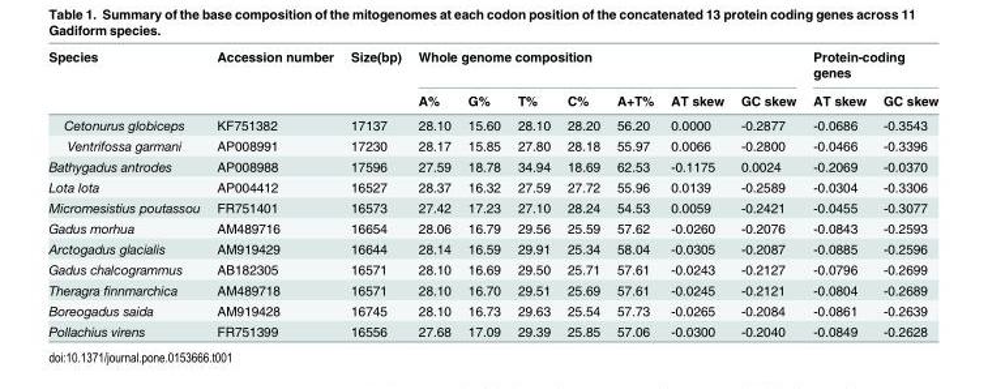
<table><thead><tr><td rowspan="2">Species</td><td rowspan="2">Accession number</td><td rowspan="2">Size(bp)</td><td colspan="7">Whole genome composition</td><td colspan="2">Protein-coding genes</td></tr><tr><td>A%</td><td>G%</td><td>T%</td><td>C%</td><td>A+T%</td><td>AT skew</td><td>GC skew</td><td>AT skew</td><td>GC skew</td></tr></thead><tbody><tr><td>Cetonurus globiceps</td><td>KF751382</td><td>17137</td><td>28.10</td><td>15.60</td><td>28.10</td><td>28.20</td><td>56.20</td><td>0.0000</td><td>-0.2877</td><td>-0.0686</td><td>-0.3543</td></tr><tr><td>Ventrifossa garmani</td><td>AP008991</td><td>17230</td><td>28.17</td><td>15.85</td><td>27.80</td><td>28.18</td><td>55.97</td><td>0.0066</td><td>-0.2800</td><td>-0.0466</td><td>-0.3396</td></tr><tr><td>Bathygadus antrodes</td><td>AP008988</td><td>17596</td><td>27.59</td><td>18.78</td><td>34.94</td><td>18.69</td><td>62.53</td><td>-0.1175</td><td>0.0024</td><td>-0.2069</td><td>-0.0370</td></tr><tr><td>Lota lota</td><td>AP004412</td><td>16527</td><td>28.37</td><td>16.32</td><td>27.59</td><td>27.72</td><td>55.96</td><td>0.0139</td><td>-0.2589</td><td>-0.0304</td><td>-0.3306</td></tr><tr><td>Micromesistius poutassou</td><td>FR751401</td><td>16573</td><td>27.42</td><td>17.23</td><td>27.10</td><td>28.24</td><td>54.53</td><td>0.0059</td><td>-0.2421</td><td>-0.0455</td><td>-0.3077</td></tr><tr><td>Gadus morhua</td><td>AM489716</td><td>16654</td><td>28.06</td><td>16.79</td><td>29.56</td><td>25.59</td><td>57.62</td><td>-0.0260</td><td>-0.2076</td><td>-0.0843</td><td>-0.2593</td></tr><tr><td>Arctogadus glacialis</td><td>AM919429</td><td>16644</td><td>28.14</td><td>16.59</td><td>29.91</td><td>25.34</td><td>58.04</td><td>-0.0305</td><td>-0.2087</td><td>-0.0885</td><td>-0.2596</td></tr><tr><td>Gadus chalcogrammus</td><td>AB182305</td><td>16571</td><td>28.10</td><td>16.69</td><td>29.50</td><td>25.71</td><td>57.61</td><td>-0.0243</td><td>-0.2127</td><td>-0.0796</td><td>-0.2699</td></tr><tr><td>Theragra finnmarchica</td><td>AM489718</td><td>16571</td><td>28.10</td><td>16.70</td><td>29.51</td><td>25.69</td><td>57.61</td><td>-0.0245</td><td>-0.2121</td><td>-0.0804</td><td>-0.2689</td></tr><tr><td>Boreogadus saida</td><td>AM919428</td><td>16745</td><td>28.10</td><td>16.73</td><td>29.63</td><td>25.54</td><td>57.73</td><td>-0.0265</td><td>-0.2084</td><td>-0.0861</td><td>-0.2639</td></tr><tr><td>Pollachius virens</td><td>FR751399</td><td>16556</td><td>27.68</td><td>17.09</td><td>29.39</td><td>25.85</td><td>57.06</td><td>-0.0300</td><td>-0.2040</td><td>-0.0849</td><td>-0.2628</td></tr></tbody></table>